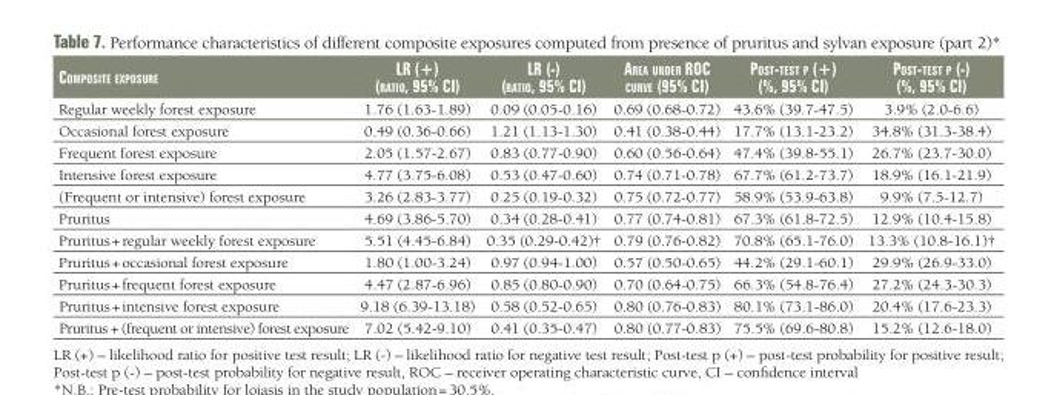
<table><tbody><tr><td>comPosiTe exPosure</td><td>lr (+) (raTio, 95% ci)</td><td>lr (-) (raTio, 95% ci)</td><td>area uNder roc curve (95% ci)</td><td>PosT-TesT P (+) (%, 95% ci)</td><td>PosT-TesT P (-) (%, 95% ci)</td></tr><tr><td>Regular weekly forest exposure</td><td>1.76 (1.63-1.89)</td><td>0.09 (0.05-0.16)</td><td>0.69 (0.68-0.72)</td><td>43.6% (39.7-47.5)</td><td>3.9% (2.0-6.6)</td></tr><tr><td>Occasional forest exposure</td><td>0.49 (0.36-0.66)</td><td>1.21 (1.13-1.30)</td><td>0.41 (0.38-0.44)</td><td>17.7% (13.1-23.2)</td><td>34.8% (31.3-38.4)</td></tr><tr><td>Frequent forest exposure</td><td>2.05 (1.57-2.67)</td><td>0.83 (0.77-0.90)</td><td>0.60 (0.56-0.64)</td><td>47.4% (39.8-55.1)</td><td>26.7% (23.7-30.0)</td></tr><tr><td>Intensive forest exposure</td><td>4.77 (3.75-6.08)</td><td>0.53 (0.47-0.60)</td><td>0.74 (0.71-0.78)</td><td>67.7% (61.2-73.7)</td><td>18.9% (16.1-21.9)</td></tr><tr><td>(Frequent or intensive) forest exposure</td><td>3.26 (2.83-3.77)</td><td>0.25 (0.19-0.32)</td><td>0.75 (0.72-0.77)</td><td>58.9% (53.9-63.8)</td><td>9.9% (7.5-12.7)</td></tr><tr><td>Pruritus</td><td>4.69 (3.86-5.70)</td><td>0.34 (0.28-0.41)</td><td>0.77 (0.74-0.81)</td><td>67.3% (61.8-72.5)</td><td>12.9% (10.4-15.8)</td></tr><tr><td>Pruritus + regular weekly forest exposure</td><td>5.51 (4.45-6.84)</td><td>0.35 (0.29-0.42)†</td><td>0.79 (0.76-0.82)</td><td>70.8% (65.1-76.0)</td><td>13.3% (10.8-16.1)†</td></tr><tr><td>Pruritus + occasional forest exposure</td><td>1.80 (1.00-3.24)</td><td>0.97 (0.94-1.00)</td><td>0.57 (0.50-0.65)</td><td>44.2% (29.1-60.1)</td><td>29.9% (26.9-33.0)</td></tr><tr><td>Pruritus + frequent forest exposure</td><td>4.47 (2.87-6.96)</td><td>0.85 (0.80-0.90)</td><td>0.70 (0.64-0.75)</td><td>66.3% (54.8-76.4)</td><td>27.2% (24.3-30.3)</td></tr><tr><td>Pruritus + intensive forest exposure</td><td>9.18 (6.39-13.18)</td><td>0.58 (0.52-0.65)</td><td>0.80 (0.76-0.83)</td><td>80.1% (73.1-86.0)</td><td>20.4% (17.6-23.3)</td></tr><tr><td>Pruritus + (frequent or intensive) forest exposure</td><td>7.02 (5.42-9.10)</td><td>0.41 (0.35-0.47)</td><td>0.80 (0.77-0.83)</td><td>75.5% (69.6-80.8)</td><td>15.2% (12.6-18.0)</td></tr></tbody></table>